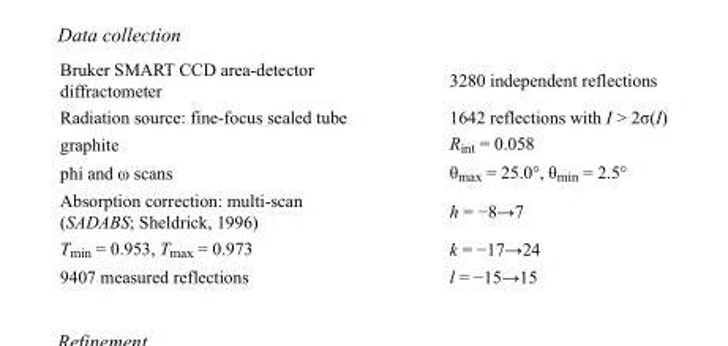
<table><tbody><tr><td>Bruker SMART CCD area-detector diffractometer</td><td>3280 independent reflections</td></tr><tr><td>Radiation source: fine-focus sealed tube</td><td>1642 reflections with I &gt; 2σ(I)</td></tr><tr><td>graphite</td><td>R<sub>int</sub> = 0.058</td></tr><tr><td>phi and ω scans</td><td>θ<sub>max</sub> = 25.0°, θ<sub>min</sub> = 2.5°</td></tr><tr><td>Absorption correction: multi-scan (SADABS; Sheldrick, 1996)</td><td>h = −8→7</td></tr><tr><td>T<sub>min</sub> = 0.953, T<sub>max</sub> = 0.973</td><td>k = −17→24</td></tr><tr><td>9407 measured reflections</td><td>l = −15→15</td></tr></tbody></table>